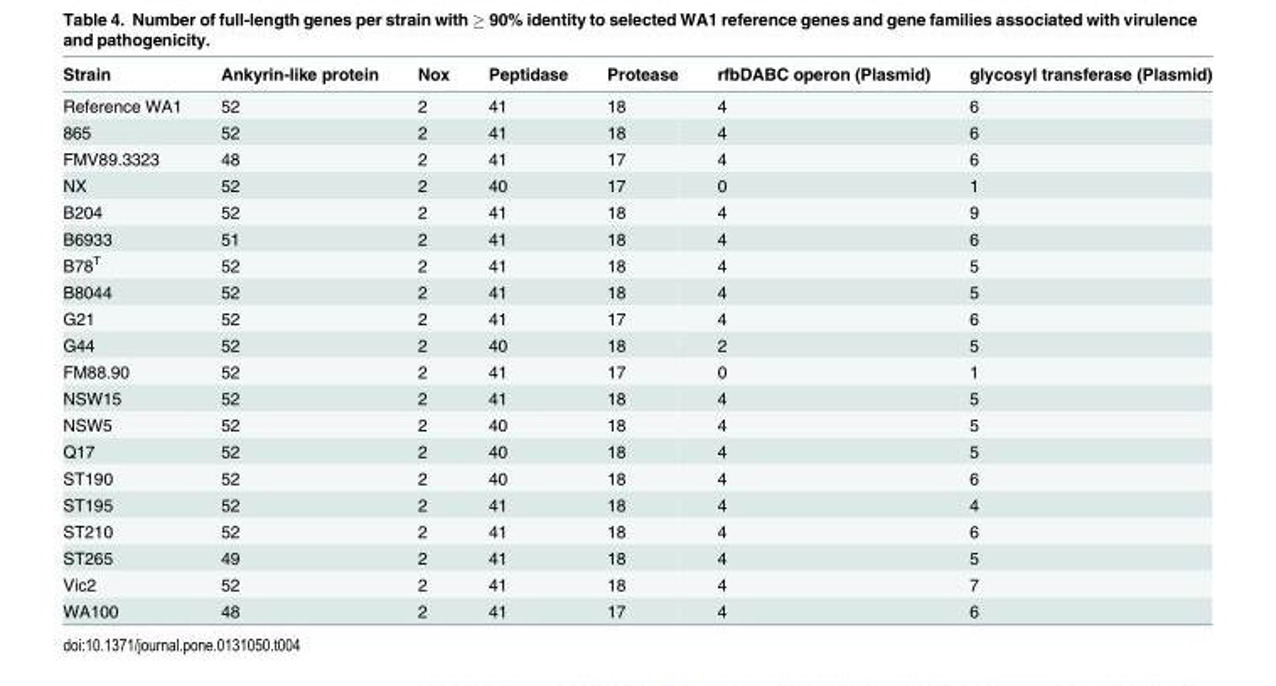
<table><thead><tr><td>Strain</td><td>Ankyrin-like protein</td><td>Nox</td><td>Peptidase</td><td>Protease</td><td>rfbDABC operon (Plasmid)</td><td>glycosyl transferase (Plasmid)</td></tr></thead><tbody><tr><td>Reference WA1</td><td>52</td><td>2</td><td>41</td><td>18</td><td>4</td><td>6</td></tr><tr><td>865</td><td>52</td><td>2</td><td>41</td><td>18</td><td>4</td><td>6</td></tr><tr><td>FMV89.3323</td><td>48</td><td>2</td><td>41</td><td>17</td><td>4</td><td>6</td></tr><tr><td>NX</td><td>52</td><td>2</td><td>40</td><td>17</td><td>0</td><td>1</td></tr><tr><td>B204</td><td>52</td><td>2</td><td>41</td><td>18</td><td>4</td><td>9</td></tr><tr><td>B6933</td><td>51</td><td>2</td><td>41</td><td>18</td><td>4</td><td>6</td></tr><tr><td>B78<sup>T</sup></td><td>52</td><td>2</td><td>41</td><td>18</td><td>4</td><td>5</td></tr><tr><td>B8044</td><td>52</td><td>2</td><td>41</td><td>18</td><td>4</td><td>5</td></tr><tr><td>G21</td><td>52</td><td>2</td><td>41</td><td>17</td><td>4</td><td>6</td></tr><tr><td>G44</td><td>52</td><td>2</td><td>40</td><td>18</td><td>2</td><td>5</td></tr><tr><td>FM88.90</td><td>52</td><td>2</td><td>41</td><td>17</td><td>0</td><td>1</td></tr><tr><td>NSW15</td><td>52</td><td>2</td><td>41</td><td>18</td><td>4</td><td>5</td></tr><tr><td>NSW5</td><td>52</td><td>2</td><td>40</td><td>18</td><td>4</td><td>5</td></tr><tr><td>Q17</td><td>52</td><td>2</td><td>40</td><td>18</td><td>4</td><td>5</td></tr><tr><td>ST190</td><td>52</td><td>2</td><td>40</td><td>18</td><td>4</td><td>6</td></tr><tr><td>ST195</td><td>52</td><td>2</td><td>41</td><td>18</td><td>4</td><td>4</td></tr><tr><td>ST210</td><td>52</td><td>2</td><td>41</td><td>18</td><td>4</td><td>6</td></tr><tr><td>ST265</td><td>49</td><td>2</td><td>41</td><td>18</td><td>4</td><td>5</td></tr><tr><td>Vic2</td><td>52</td><td>2</td><td>41</td><td>18</td><td>4</td><td>7</td></tr><tr><td>WA100</td><td>48</td><td>2</td><td>41</td><td>17</td><td>4</td><td>6</td></tr></tbody></table>